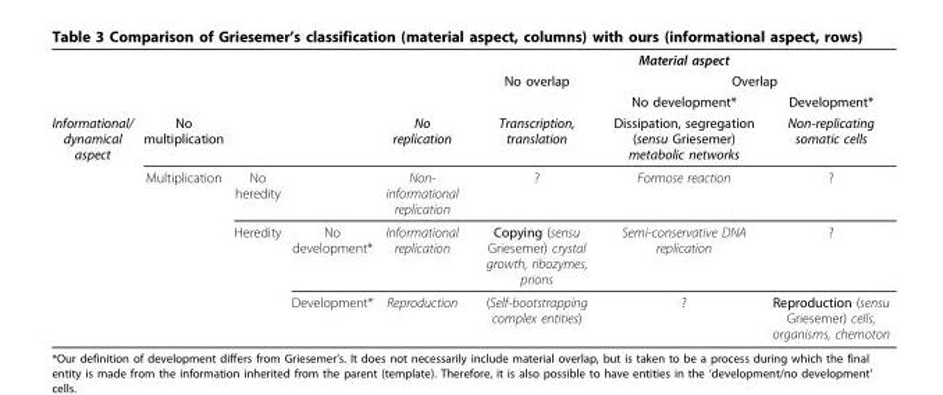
<table><thead><tr><td rowspan="3"></td><td rowspan="3"></td><td rowspan="3"></td><td rowspan="3"></td><td rowspan="3"></td><td colspan="3">Material aspect</td></tr><tr><td rowspan="2">No overlap</td><td colspan="2">Overlap</td></tr><tr><td>No development*</td><td>Development*</td></tr></thead><tbody><tr><td rowspan="4">Informational/ dynamical aspect</td><td>No multiplication</td><td></td><td></td><td>No replication</td><td>Transcription, translation</td><td>Dissipation, segregation (sensu Griesemer) metabolic networks</td><td>Non-replicating somatic cells</td></tr><tr><td>Multiplication</td><td>No heredity</td><td></td><td>Non- informational replication</td><td>?</td><td>Formose reaction</td><td>?</td></tr><tr><td></td><td>Heredity</td><td>No development*</td><td>Informational replication</td><td>Copying (sensu Griesemer) crystal growth, ribozymes, prions</td><td>Semi-conservative DNA replication</td><td>?</td></tr><tr><td></td><td></td><td>Development*</td><td>Reproduction</td><td>(Self-bootstrapping complex entities)</td><td>?</td><td>Reproduction (sensu Griesemer) cells, organisms, chemoton</td></tr></tbody></table>